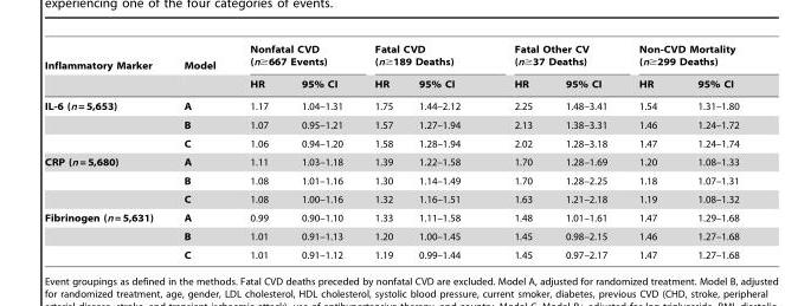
<table><thead><tr><td rowspan="2">Inflammatory Marker</td><td rowspan="2">Model</td><td colspan="2">Nonfatal CVD (n≥667 Events)</td><td colspan="2">Fatal CVD (n≥189 Deaths)</td><td colspan="2">Fatal Other CV (n≥37 Deaths)</td><td colspan="2">Non-CVD Mortality (n≥299 Deaths)</td></tr><tr><td>HR</td><td>95% CI</td><td>HR</td><td>95% CI</td><td>HR</td><td>95% CI</td><td>HR</td><td>95% CI</td></tr></thead><tbody><tr><td rowspan="3">IL-6 (n = 5,653)</td><td>A</td><td>1.17</td><td>1.04–1.31</td><td>1.75</td><td>1.44–2.12</td><td>2.25</td><td>1.48–3.41</td><td>1.54</td><td>1.31–1.80</td></tr><tr><td>B</td><td>1.07</td><td>0.95–1.21</td><td>1.57</td><td>1.27–1.94</td><td>2.13</td><td>1.38–3.31</td><td>1.46</td><td>1.24–1.72</td></tr><tr><td>C</td><td>1.06</td><td>0.94–1.20</td><td>1.58</td><td>1.28–1.94</td><td>2.02</td><td>1.28–3.18</td><td>1.47</td><td>1.24–1.74</td></tr><tr><td rowspan="3">CRP (n = 5,680)</td><td>A</td><td>1.11</td><td>1.03–1.18</td><td>1.39</td><td>1.22–1.58</td><td>1.70</td><td>1.28–1.69</td><td>1.20</td><td>1.08–1.33</td></tr><tr><td>B</td><td>1.08</td><td>1.01–1.16</td><td>1.30</td><td>1.14–1.49</td><td>1.70</td><td>1.28–2.25</td><td>1.18</td><td>1.07–1.31</td></tr><tr><td>C</td><td>1.08</td><td>1.00–1.16</td><td>1.32</td><td>1.16–1.51</td><td>1.63</td><td>1.21–2.18</td><td>1.19</td><td>1.08–1.32</td></tr><tr><td rowspan="3">Fibrinogen (n = 5,631)</td><td>A</td><td>0.99</td><td>0.90–1.10</td><td>1.33</td><td>1.11–1.58</td><td>1.48</td><td>1.01–1.61</td><td>1.47</td><td>1.29–1.68</td></tr><tr><td>B</td><td>1.01</td><td>0.91–1.13</td><td>1.20</td><td>1.00–1.45</td><td>1.45</td><td>0.98–2.15</td><td>1.46</td><td>1.27–1.68</td></tr><tr><td>C</td><td>1.01</td><td>0.91–1.12</td><td>1.19</td><td>0.99–1.44</td><td>1.45</td><td>0.97–2.17</td><td>1.47</td><td>1.27–1.68</td></tr></tbody></table>